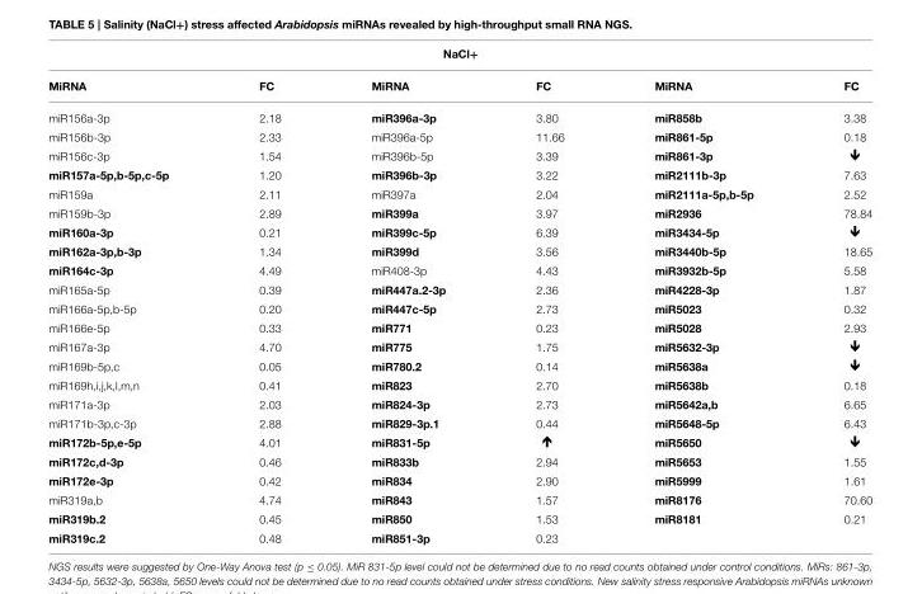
<table><thead><tr><td colspan="6">NaCl+</td></tr><tr><td>MiRNA</td><td>FC</td><td>MiRNA</td><td>FC</td><td>MiRNA</td><td>FC</td></tr></thead><tbody><tr><td>miR156a-3p</td><td>2.18</td><td>miR396a-3p</td><td>3.80</td><td>miR858b</td><td>3.38</td></tr><tr><td>miR156b-3p</td><td>2.33</td><td>miR396a-5p</td><td>11.66</td><td>miR861-5p</td><td>0.18</td></tr><tr><td>miR156c-3p</td><td>1.54</td><td>miR396b-5p</td><td>3.39</td><td>miR861-3p</td><td></td></tr><tr><td>miR157a-5p,b-5p,c-5p</td><td>1.20</td><td>miR396b-3p</td><td>3.22</td><td>miR2111b-3p</td><td>7.63</td></tr><tr><td>miR159a</td><td>2.11</td><td>miR397a</td><td>2.04</td><td>miR2111a-5p,b-5p</td><td>2.52</td></tr><tr><td>miR159b-3p</td><td>2.89</td><td>miR399a</td><td>3.97</td><td>miR2936</td><td>78.84</td></tr><tr><td>miR160a-3p</td><td>0.21</td><td>miR399c-5p</td><td>6.39</td><td>miR3434-5p</td><td></td></tr><tr><td>miR162a-3p,b-3p</td><td>1.34</td><td>miR399d</td><td>3.56</td><td>miR3440b-5p</td><td>18.65</td></tr><tr><td>miR164c-3p</td><td>4.49</td><td>miR408-3p</td><td>4.43</td><td>miR3932b-5p</td><td>5.58</td></tr><tr><td>miR165a-5p</td><td>0.39</td><td>miR447a.2-3p</td><td>2.36</td><td>miR4228-3p</td><td>1.87</td></tr><tr><td>miR166a-5p,b-5p</td><td>0.20</td><td>miR447c-5p</td><td>2.73</td><td>miR5023</td><td>0.32</td></tr><tr><td>miR166e-5p</td><td>0.33</td><td>miR771</td><td>0.23</td><td>miR5028</td><td>2.93</td></tr><tr><td>miR167a-3p</td><td>4.70</td><td>miR775</td><td>1.75</td><td>miR5632-3p</td><td></td></tr><tr><td>miR169b-5p,c</td><td>0.05</td><td>miR780.2</td><td>0.14</td><td>miR5638a</td><td></td></tr><tr><td>miR169h,i,j,k,l,m,n</td><td>0.41</td><td>miR823</td><td>2.70</td><td>miR5638b</td><td>0.18</td></tr><tr><td>miR171a-3p</td><td>2.03</td><td>miR824-3p</td><td>2.73</td><td>miR5642a,b</td><td>6.65</td></tr><tr><td>miR171b-3p,c-3p</td><td>2.88</td><td>miR829-3p.1</td><td>0.44</td><td>miR5648-5p</td><td>6.43</td></tr><tr><td>miR172b-5p,e-5p</td><td>4.01</td><td>miR831-5p</td><td></td><td>miR5650</td><td></td></tr><tr><td>miR172c,d-3p</td><td>0.46</td><td>miR833b</td><td>2.94</td><td>miR5653</td><td>1.55</td></tr><tr><td>miR172e-3p</td><td>0.42</td><td>miR834</td><td>2.90</td><td>miR5999</td><td>1.61</td></tr><tr><td>miR319a,b</td><td>4.74</td><td>miR843</td><td>1.57</td><td>miR8176</td><td>70.60</td></tr><tr><td>miR319b.2</td><td>0.45</td><td>miR850</td><td>1.53</td><td>miR8181</td><td>0.21</td></tr><tr><td>miR319c.2</td><td>0.48</td><td>miR851-3p</td><td>0.23</td><td></td><td></td></tr></tbody></table>